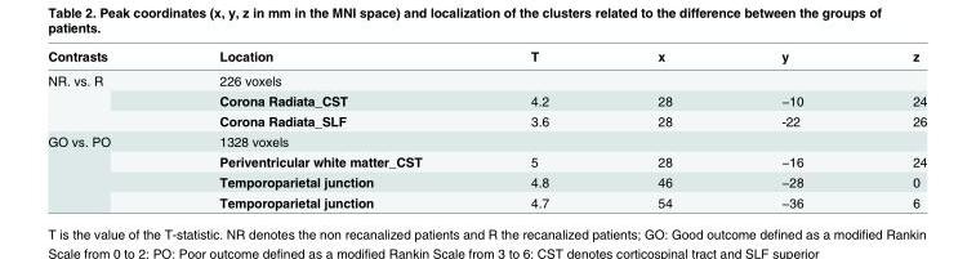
<table><thead><tr><td>Contrasts</td><td>Location</td><td>T</td><td>x</td><td>y</td><td>z</td></tr></thead><tbody><tr><td rowspan="3">NR. vs. R</td><td colspan="5">226 voxels</td></tr><tr><td>Corona Radiata_CST</td><td>4.2</td><td>28</td><td>−10</td><td>24</td></tr><tr><td>Corona Radiata_SLF</td><td>3.6</td><td>28</td><td>-22</td><td>26</td></tr><tr><td rowspan="4">GO vs. PO</td><td colspan="5">1328 voxels</td></tr><tr><td>Periventricular white matter_CST</td><td>5</td><td>28</td><td>−16</td><td>24</td></tr><tr><td>Temporoparietal junction</td><td>4.8</td><td>46</td><td>−28</td><td>0</td></tr><tr><td>Temporoparietal junction</td><td>4.7</td><td>54</td><td>−36</td><td>6</td></tr></tbody></table>